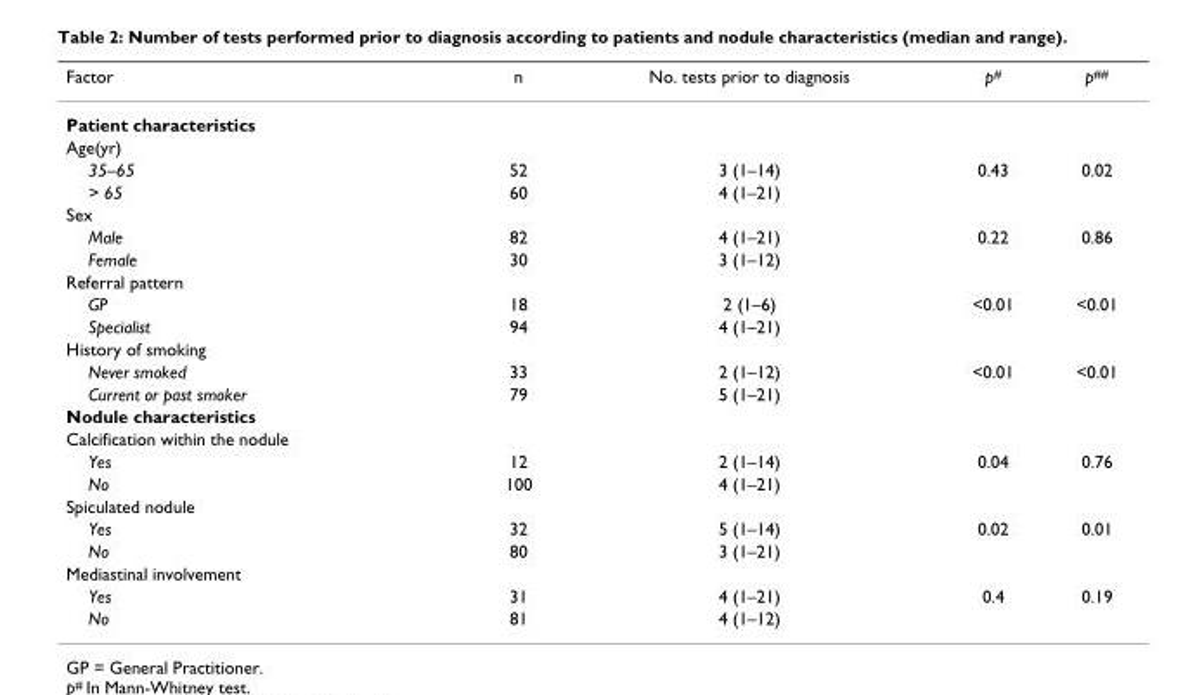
<table><thead><tr><td>Factor</td><td>n</td><td>No. tests prior to diagnosis</td><td>p<sup>#</sup></td><td>p<sup>##</sup></td></tr></thead><tbody><tr><td colspan="5">Patient characteristics</td></tr><tr><td colspan="5">Age(yr)</td></tr><tr><td>35–65</td><td>52</td><td>3 (1–14)</td><td>0.43</td><td>0.02</td></tr><tr><td>&gt; 65</td><td>60</td><td>4 (1–21)</td><td></td><td></td></tr><tr><td colspan="5">Sex</td></tr><tr><td>Male</td><td>82</td><td>4 (1–21)</td><td>0.22</td><td>0.86</td></tr><tr><td>Female</td><td>30</td><td>3 (1–12)</td><td></td><td></td></tr><tr><td colspan="5">Referral pattern</td></tr><tr><td>GP</td><td>18</td><td>2 (1–6)</td><td>&lt;0.01</td><td>&lt;0.01</td></tr><tr><td>Specialist</td><td>94</td><td>4 (1–21)</td><td></td><td></td></tr><tr><td colspan="5">History of smoking</td></tr><tr><td>Never smoked</td><td>33</td><td>2 (1–12)</td><td>&lt;0.01</td><td>&lt;0.01</td></tr><tr><td>Current or past smoker</td><td>79</td><td>5 (1–21)</td><td></td><td></td></tr><tr><td colspan="5">Nodule characteristics</td></tr><tr><td colspan="5">Calcification within the nodule</td></tr><tr><td>Yes</td><td>12</td><td>2 (1–14)</td><td>0.04</td><td>0.76</td></tr><tr><td>No</td><td>100</td><td>4 (1–21)</td><td></td><td></td></tr><tr><td colspan="5">Spiculated nodule</td></tr><tr><td>Yes</td><td>32</td><td>5 (1–14)</td><td>0.02</td><td>0.01</td></tr><tr><td>No</td><td>80</td><td>3 (1–21)</td><td></td><td></td></tr><tr><td colspan="5">Mediastinal involvement</td></tr><tr><td>Yes</td><td>31</td><td>4 (1–21)</td><td>0.4</td><td>0.19</td></tr><tr><td>No</td><td>81</td><td>4 (1–12)</td><td></td><td></td></tr></tbody></table>